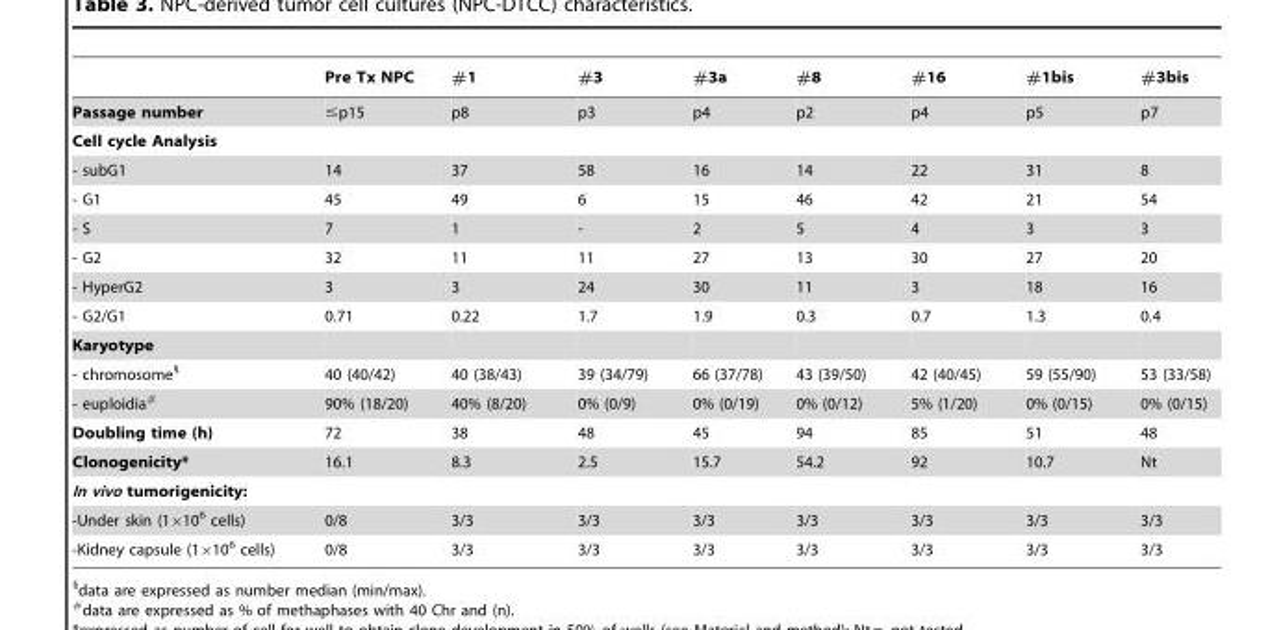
<table><thead><tr><td></td><td>Pre Tx NPC</td><td>#1</td><td>#3</td><td>#3a</td><td>#8</td><td>#16</td><td>#1bis</td><td>#3bis</td></tr></thead><tbody><tr><td>Passage number</td><td>≤p15</td><td>p8</td><td>p3</td><td>p4</td><td>p2</td><td>p4</td><td>p5</td><td>p7</td></tr><tr><td colspan="9">Cell cycle Analysis</td></tr><tr><td>- subG1</td><td>14</td><td>37</td><td>58</td><td>16</td><td>14</td><td>22</td><td>31</td><td>8</td></tr><tr><td>- G1</td><td>45</td><td>49</td><td>6</td><td>15</td><td>46</td><td>42</td><td>21</td><td>54</td></tr><tr><td>- S</td><td>7</td><td>1</td><td>-</td><td>2</td><td>5</td><td>4</td><td>3</td><td>3</td></tr><tr><td>- G2</td><td>32</td><td>11</td><td>11</td><td>27</td><td>13</td><td>30</td><td>27</td><td>20</td></tr><tr><td>- HyperG2</td><td>3</td><td>3</td><td>24</td><td>30</td><td>11</td><td>3</td><td>18</td><td>16</td></tr><tr><td>- G2/G1</td><td>0.71</td><td>0.22</td><td>1.7</td><td>1.9</td><td>0.3</td><td>0.7</td><td>1.3</td><td>0.4</td></tr><tr><td colspan="9">Karyotype</td></tr><tr><td>- chromosome§</td><td>40 (40/42)</td><td>40 (38/43)</td><td>39 (34/79)</td><td>66 (37/78)</td><td>43 (39/50)</td><td>42 (40/45)</td><td>59 (55/90)</td><td>53 (33/58)</td></tr><tr><td>- euploidia#</td><td>90% (18/20)</td><td>40% (8/20)</td><td>0% (0/9)</td><td>0% (0/19)</td><td>0% (0/12)</td><td>5% (1/20)</td><td>0% (0/15)</td><td>0% (0/15)</td></tr><tr><td>Doubling time (h)</td><td>72</td><td>38</td><td>48</td><td>45</td><td>94</td><td>85</td><td>51</td><td>48</td></tr><tr><td>Clonogenicity*</td><td>16.1</td><td>8.3</td><td>2.5</td><td>15.7</td><td>54.2</td><td>92</td><td>10.7</td><td>Nt</td></tr><tr><td colspan="9">In vivo tumorigenicity:</td></tr><tr><td>-Under skin (1×10<sup>6</sup> cells)</td><td>0/8</td><td>3/3</td><td>3/3</td><td>3/3</td><td>3/3</td><td>3/3</td><td>3/3</td><td>3/3</td></tr><tr><td>-Kidney capsule (1×10<sup>6</sup> cells)</td><td>0/8</td><td>3/3</td><td>3/3</td><td>3/3</td><td>3/3</td><td>3/3</td><td>3/3</td><td>3/3</td></tr></tbody></table>